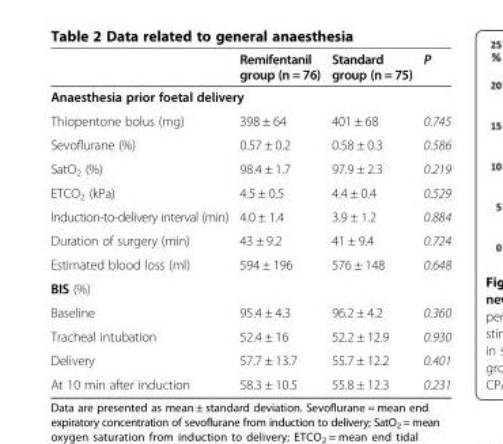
<table><thead><tr><td></td><td>Remifentanil group (n = 76)</td><td>Standard group (n = 75)</td><td>P</td></tr></thead><tbody><tr><td colspan="4">Anaesthesia prior foetal delivery</td></tr><tr><td>Thiopentone bolus (mg)</td><td>398 ± 64</td><td>401 ± 68</td><td>0.745</td></tr><tr><td>Sevoflurane (%)</td><td>0.57 ± 0.2</td><td>0.58 ± 0.3</td><td>0.586</td></tr><tr><td>SatO<sub>2</sub> (%)</td><td>98.4 ± 1.7</td><td>97.9 ± 2.3</td><td>0.219</td></tr><tr><td>ETCO<sub>2</sub> (kPa)</td><td>4.5 ± 0.5</td><td>4.4 ± 0.4</td><td>0.529</td></tr><tr><td>Induction-to-delivery interval (min)</td><td>4.0 ± 1.4</td><td>3.9 ± 1.2</td><td>0.884</td></tr><tr><td>Duration of surgery (min)</td><td>43 ± 9.2</td><td>41 ± 9.4</td><td>0.724</td></tr><tr><td>Estimated blood loss (ml)</td><td>594 ± 196</td><td>576 ± 148</td><td>0.648</td></tr><tr><td colspan="4">BIS (%)</td></tr><tr><td>Baseline</td><td>95.4 ± 4.3</td><td>96.2 ± 4.2</td><td>0.360</td></tr><tr><td>Tracheal intubation</td><td>52.4 ± 16</td><td>52.2 ± 12.9</td><td>0.930</td></tr><tr><td>Delivery</td><td>57.7 ± 13.7</td><td>55.7 ± 12.2</td><td>0.401</td></tr><tr><td>At 10 min after induction</td><td>58.3 ± 10.5</td><td>55.8 ± 12.3</td><td>0.231</td></tr></tbody></table>